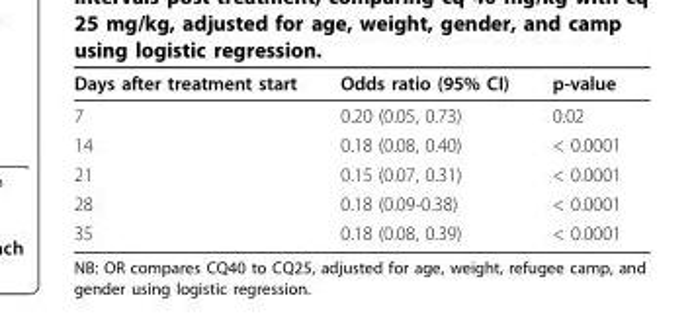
<table><thead><tr><td>Days after treatment start</td><td>Odds ratio (95% CI)</td><td>p-value</td></tr></thead><tbody><tr><td>7</td><td>0.20 (0.05, 0.73)</td><td>0.02</td></tr><tr><td>14</td><td>0.18 (0.08, 0.40)</td><td>&lt; 0.0001</td></tr><tr><td>21</td><td>0.15 (0.07, 0.31)</td><td>&lt; 0.0001</td></tr><tr><td>28</td><td>0.18 (0.09-0.38)</td><td>&lt; 0.0001</td></tr><tr><td>35</td><td>0.18 (0.08, 0.39)</td><td>&lt; 0.0001</td></tr></tbody></table>